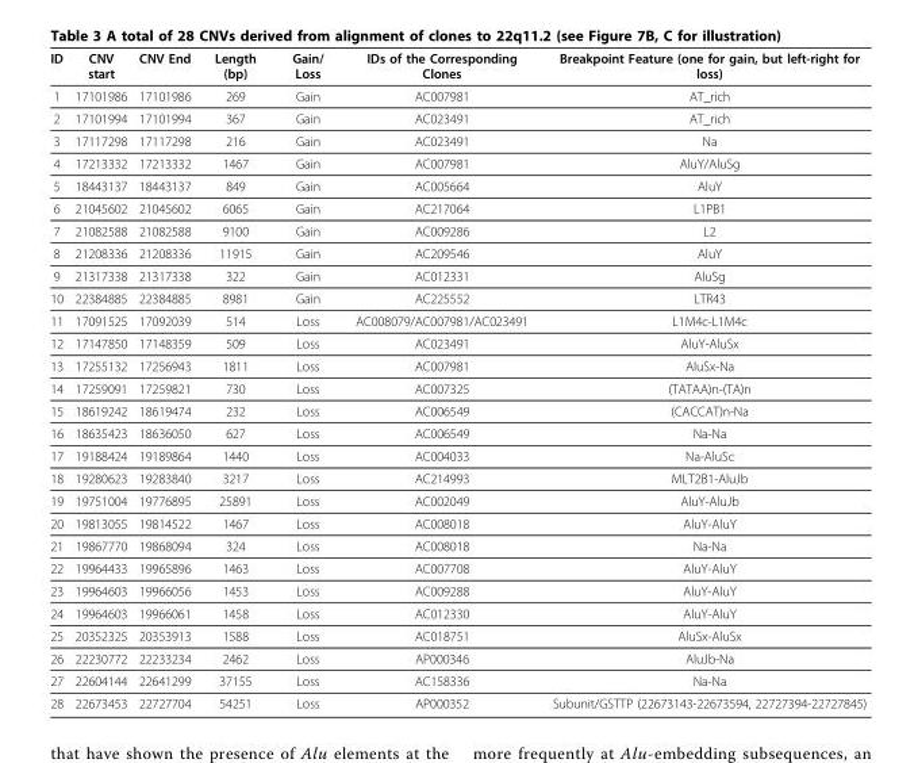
<table><thead><tr><td>ID</td><td>CNV start</td><td>CNV End</td><td>Length (bp)</td><td>Gain/ Loss</td><td>IDs of the Corresponding Clones</td><td>Breakpoint Feature (one for gain, but left-right for loss)</td></tr></thead><tbody><tr><td>1</td><td>17101986</td><td>17101986</td><td>269</td><td>Gain</td><td>AC007981</td><td>AT_rich</td></tr><tr><td>2</td><td>17101994</td><td>17101994</td><td>367</td><td>Gain</td><td>AC023491</td><td>AT_rich</td></tr><tr><td>3</td><td>17117298</td><td>17117298</td><td>216</td><td>Gain</td><td>AC023491</td><td>Na</td></tr><tr><td>4</td><td>17213332</td><td>17213332</td><td>1467</td><td>Gain</td><td>AC007981</td><td>AluY/AluSg</td></tr><tr><td>5</td><td>18443137</td><td>18443137</td><td>849</td><td>Gain</td><td>AC005664</td><td>AluY</td></tr><tr><td>6</td><td>21045602</td><td>21045602</td><td>6065</td><td>Gain</td><td>AC217064</td><td>L1PB1</td></tr><tr><td>7</td><td>21082588</td><td>21082588</td><td>9100</td><td>Gain</td><td>AC009286</td><td>L2</td></tr><tr><td>8</td><td>21208336</td><td>21208336</td><td>11915</td><td>Gain</td><td>AC209546</td><td>AluY</td></tr><tr><td>9</td><td>21317338</td><td>21317338</td><td>322</td><td>Gain</td><td>AC012331</td><td>AluSg</td></tr><tr><td>10</td><td>22384885</td><td>22384885</td><td>8981</td><td>Gain</td><td>AC225552</td><td>LTR43</td></tr><tr><td>11</td><td>17091525</td><td>17092039</td><td>514</td><td>Loss</td><td>AC008079/AC007981/AC023491</td><td>L1M4c-L1M4c</td></tr><tr><td>12</td><td>17147850</td><td>17148359</td><td>509</td><td>Loss</td><td>AC023491</td><td>AluY-AluSx</td></tr><tr><td>13</td><td>17255132</td><td>17256943</td><td>1811</td><td>Loss</td><td>AC007981</td><td>AluSx-Na</td></tr><tr><td>14</td><td>17259091</td><td>17259821</td><td>730</td><td>Loss</td><td>AC007325</td><td>(TATAA)n-(TA)n</td></tr><tr><td>15</td><td>18619242</td><td>18619474</td><td>232</td><td>Loss</td><td>AC006549</td><td>(CACCAT)n-Na</td></tr><tr><td>16</td><td>18635423</td><td>18636050</td><td>627</td><td>Loss</td><td>AC006549</td><td>Na-Na</td></tr><tr><td>17</td><td>19188424</td><td>19189864</td><td>1440</td><td>Loss</td><td>AC004033</td><td>Na-AluSc</td></tr><tr><td>18</td><td>19280623</td><td>19283840</td><td>3217</td><td>Loss</td><td>AC214993</td><td>MLT2B1-AluJb</td></tr><tr><td>19</td><td>19751004</td><td>19776895</td><td>25891</td><td>Loss</td><td>AC002049</td><td>AluY-AluJb</td></tr><tr><td>20</td><td>19813055</td><td>19814522</td><td>1467</td><td>Loss</td><td>AC008018</td><td>AluY-AluY</td></tr><tr><td>21</td><td>19867770</td><td>19868094</td><td>324</td><td>Loss</td><td>AC008018</td><td>Na-Na</td></tr><tr><td>22</td><td>19964433</td><td>19965896</td><td>1463</td><td>Loss</td><td>AC007708</td><td>AluY-AluY</td></tr><tr><td>23</td><td>19964603</td><td>19966056</td><td>1453</td><td>Loss</td><td>AC009288</td><td>AluY-AluY</td></tr><tr><td>24</td><td>19964603</td><td>19966061</td><td>1458</td><td>Loss</td><td>AC012330</td><td>AluY-AluY</td></tr><tr><td>25</td><td>20352325</td><td>20353913</td><td>1588</td><td>Loss</td><td>AC018751</td><td>AluSx-AluSx</td></tr><tr><td>26</td><td>22230772</td><td>22233234</td><td>2462</td><td>Loss</td><td>AP000346</td><td>AluJb-Na</td></tr><tr><td>27</td><td>22604144</td><td>22641299</td><td>37155</td><td>Loss</td><td>AC158336</td><td>Na-Na</td></tr><tr><td>28</td><td>22673453</td><td>22727704</td><td>54251</td><td>Loss</td><td>AP000352</td><td>Subunit/GSTTP (22673143-22673594, 22727394-22727845)</td></tr></tbody></table>